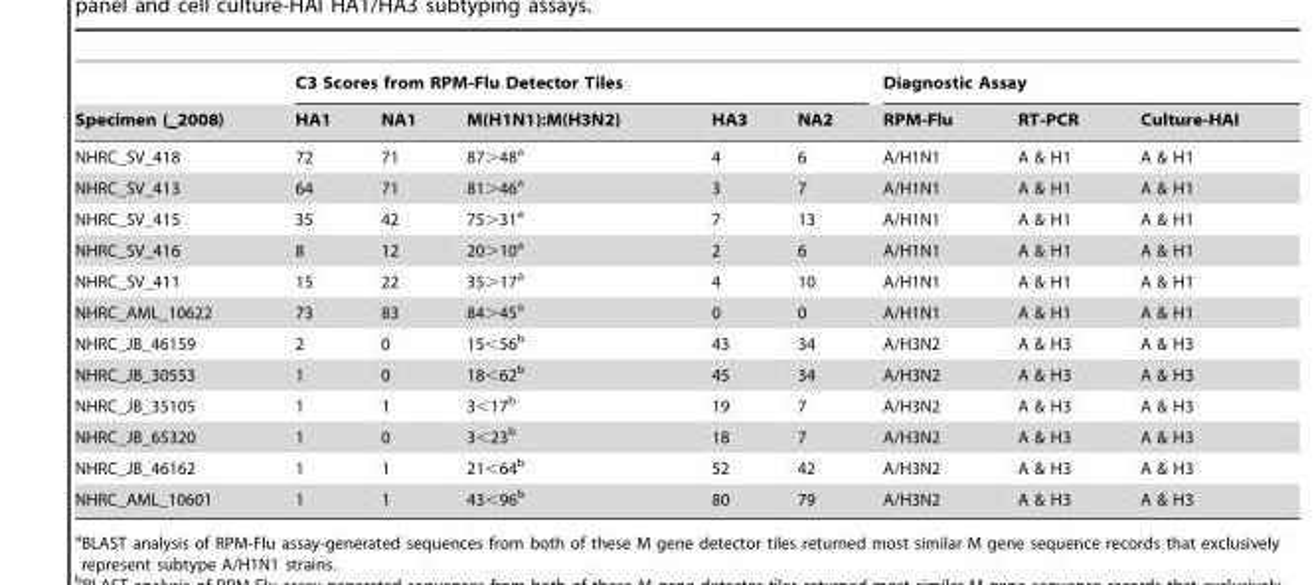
<table><thead><tr><td rowspan="2">Specimen (__2008)</td><td colspan="5">C3 Scores from RPM-Flu Detector Tiles</td><td colspan="3">Diagnostic Assay</td></tr><tr><td>HA1</td><td>NA1</td><td>M(H1N1):M(H3N2)</td><td>HA3</td><td>NA2</td><td>RPM-Flu</td><td>RT-PCR</td><td>Culture-HAI</td></tr></thead><tbody><tr><td>NHRC_SV_418</td><td>72</td><td>71</td><td>87&gt;48<sup>a</sup></td><td>4</td><td>6</td><td>A/H1N1</td><td>A &amp; H1</td><td>A &amp; H1</td></tr><tr><td>NHRC_SV_413</td><td>64</td><td>71</td><td>81&gt;46<sup>a</sup></td><td>3</td><td>7</td><td>A/H1N1</td><td>A &amp; H1</td><td>A &amp; H1</td></tr><tr><td>NHRC_SV_415</td><td>35</td><td>42</td><td>75&gt;31<sup>a</sup></td><td>7</td><td>13</td><td>A/H1N1</td><td>A &amp; H1</td><td>A &amp; H1</td></tr><tr><td>NHRC_SV_416</td><td>8</td><td>12</td><td>20&gt;10<sup>a</sup></td><td>2</td><td>6</td><td>A/H1N1</td><td>A &amp; H1</td><td>A &amp; H1</td></tr><tr><td>NHRC_SV_411</td><td>15</td><td>22</td><td>35&gt;17<sup>a</sup></td><td>4</td><td>10</td><td>A/H1N1</td><td>A &amp; H1</td><td>A &amp; H1</td></tr><tr><td>NHRC_AML_10622</td><td>73</td><td>83</td><td>84&gt;45<sup>a</sup></td><td>0</td><td>0</td><td>A/H1N1</td><td>A &amp; H1</td><td>A &amp; H1</td></tr><tr><td>NHRC_JB_46159</td><td>2</td><td>0</td><td>15&lt;56<sup>b</sup></td><td>43</td><td>34</td><td>A/H3N2</td><td>A &amp; H3</td><td>A &amp; H3</td></tr><tr><td>NHRC_JB_30553</td><td>1</td><td>0</td><td>18&lt;62<sup>b</sup></td><td>45</td><td>34</td><td>A/H3N2</td><td>A &amp; H3</td><td>A &amp; H3</td></tr><tr><td>NHRC_JB_35105</td><td>1</td><td>1</td><td>3&lt;17<sup>b</sup></td><td>19</td><td>7</td><td>A/H3N2</td><td>A &amp; H3</td><td>A &amp; H3</td></tr><tr><td>NHRC_JB_65320</td><td>1</td><td>0</td><td>3&lt;23<sup>b</sup></td><td>18</td><td>7</td><td>A/H3N2</td><td>A &amp; H3</td><td>A &amp; H3</td></tr><tr><td>NHRC_JB_46162</td><td>1</td><td>1</td><td>21&lt;64<sup>b</sup></td><td>52</td><td>42</td><td>A/H3N2</td><td>A &amp; H3</td><td>A &amp; H3</td></tr><tr><td>NHRC_AML_10601</td><td>1</td><td>1</td><td>43&lt;96<sup>b</sup></td><td>80</td><td>79</td><td>A/H3N2</td><td>A &amp; H3</td><td>A &amp; H3</td></tr></tbody></table>